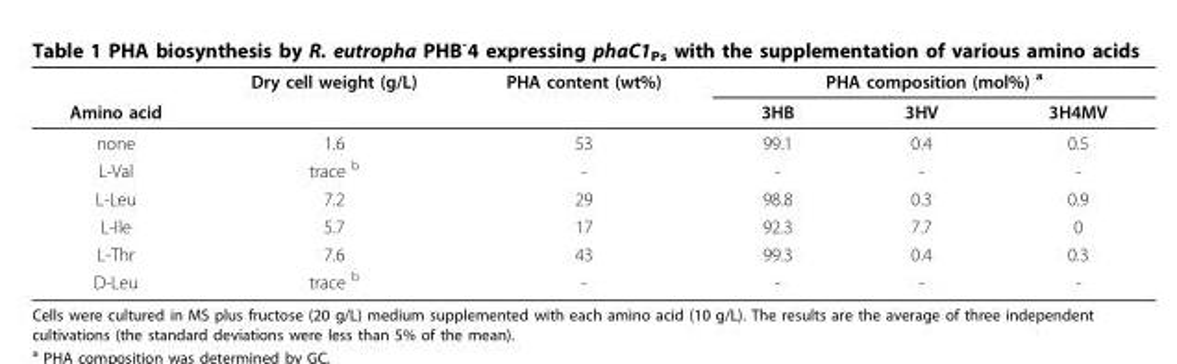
<table><thead><tr><td rowspan="2">Amino acid</td><td rowspan="2">Dry cell weight (g/L)</td><td rowspan="2">PHA content (wt%)</td><td colspan="3">PHA composition (mol%) <sup>a</sup></td></tr><tr><td>3HB</td><td>3HV</td><td>3H4MV</td></tr></thead><tbody><tr><td>none</td><td>1.6</td><td>53</td><td>99.1</td><td>0.4</td><td>0.5</td></tr><tr><td>L-Val</td><td>trace <sup>b</sup></td><td>-</td><td>-</td><td>-</td><td>-</td></tr><tr><td>L-Leu</td><td>7.2</td><td>29</td><td>98.8</td><td>0.3</td><td>0.9</td></tr><tr><td>L-Ile</td><td>5.7</td><td>17</td><td>92.3</td><td>7.7</td><td>0</td></tr><tr><td>L-Thr</td><td>7.6</td><td>43</td><td>99.3</td><td>0.4</td><td>0.3</td></tr><tr><td>D-Leu</td><td>trace <sup>b</sup></td><td>-</td><td>-</td><td>-</td><td>-</td></tr></tbody></table>